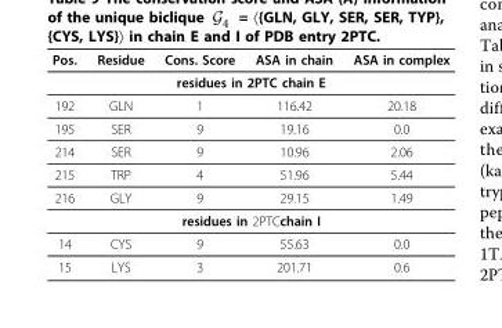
<table><thead><tr><td>Pos.</td><td>Residue</td><td>Cons. Score</td><td>ASA in chain</td><td>ASA in complex</td></tr></thead><tbody><tr><td colspan="5">residues in 2PTC chain E</td></tr><tr><td>192</td><td>GLN</td><td>1</td><td>116.42</td><td>20.18</td></tr><tr><td>195</td><td>SER</td><td>9</td><td>19.16</td><td>0.0</td></tr><tr><td>214</td><td>SER</td><td>9</td><td>10.96</td><td>2.06</td></tr><tr><td>215</td><td>TRP</td><td>4</td><td>51.96</td><td>5.44</td></tr><tr><td>216</td><td>GLY</td><td>9</td><td>29.15</td><td>1.49</td></tr><tr><td colspan="5">residues in 2PTCchain I</td></tr><tr><td>14</td><td>CYS</td><td>9</td><td>55.63</td><td>0.0</td></tr><tr><td>15</td><td>LYS</td><td>3</td><td>201.71</td><td>0.6</td></tr></tbody></table>